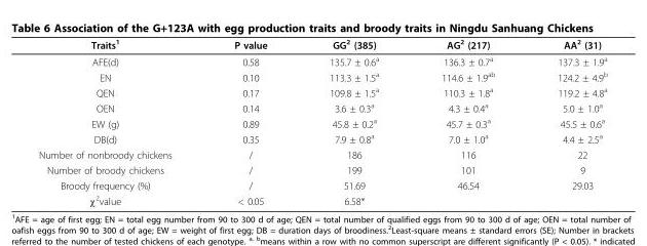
<table><thead><tr><td>Traits<sup>1</sup></td><td>P value</td><td>GG<sup>2</sup> (385)</td><td>AG<sup>2</sup> (217)</td><td>AA<sup>2</sup> (31)</td></tr></thead><tbody><tr><td>AFE(d)</td><td>0.58</td><td>135.7 ± 0.6<sup>a</sup></td><td>136.3 ± 0.7<sup>a</sup></td><td>137.3 ± 1.9<sup>a</sup></td></tr><tr><td>EN</td><td>0.10</td><td>113.3 ± 1.5<sup>a</sup></td><td>114.6 ± 1.9<sup>ab</sup></td><td>124.2 ± 4.9<sup>b</sup></td></tr><tr><td>QEN</td><td>0.17</td><td>109.8 ± 1.5<sup>a</sup></td><td>110.3 ± 1.8<sup>a</sup></td><td>119.2 ± 4.8<sup>a</sup></td></tr><tr><td>OEN</td><td>0.14</td><td>3.6 ± 0.3<sup>a</sup></td><td>4.3 ± 0.4<sup>a</sup></td><td>5.0 ± 1.0<sup>a</sup></td></tr><tr><td>EW (g)</td><td>0.89</td><td>45.8 ± 0.2<sup>a</sup></td><td>45.7 ± 0.3<sup>a</sup></td><td>45.5 ± 0.6<sup>a</sup></td></tr><tr><td>DB(d)</td><td>0.35</td><td>7.9 ± 0.8<sup>a</sup></td><td>7.0 ± 1.0<sup>a</sup></td><td>4.4 ± 2.5<sup>a</sup></td></tr><tr><td>Number of nonbroody chickens</td><td>/</td><td>186</td><td>116</td><td>22</td></tr><tr><td>Number of broody chickens</td><td>/</td><td>199</td><td>101</td><td>9</td></tr><tr><td>Broody frequency (%)</td><td>/</td><td>51.69</td><td>46.54</td><td>29.03</td></tr><tr><td>χ<sup>2</sup>value</td><td>&lt; 0.05</td><td>6.58*</td><td></td><td></td></tr></tbody></table>